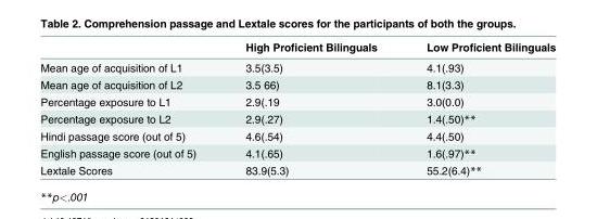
<table><thead><tr><td></td><td>High Proficient Bilinguals</td><td>Low Proficient Bilinguals</td></tr></thead><tbody><tr><td>Mean age of acquisition of L1</td><td>3.5(3.5)</td><td>4.1(.93)</td></tr><tr><td>Mean age of acquisition of L2</td><td>3.5 66)</td><td>8.1(3.3)</td></tr><tr><td>Percentage exposure to L1</td><td>2.9(.19</td><td>3.0(0.0)</td></tr><tr><td>Percentage exposure to L2</td><td>2.9(.27)</td><td>1.4(.50)**</td></tr><tr><td>Hindi passage score (out of 5)</td><td>4.6(.54)</td><td>4.4(.50)</td></tr><tr><td>English passage score (out of 5)</td><td>4.1(.65)</td><td>1.6(.97)**</td></tr><tr><td>Lextale Scores</td><td>83.9(5.3)</td><td>55.2(6.4)**</td></tr></tbody></table>